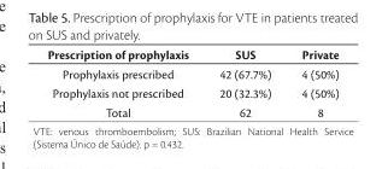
<table><thead><tr><td>Prescription of prophylaxis</td><td>SUS</td><td>Private</td></tr></thead><tbody><tr><td>Prophylaxis prescribed</td><td>42 (67.7%)</td><td>4 (50%)</td></tr><tr><td>Prophylaxis not prescribed</td><td>20 (32.3%)</td><td>4 (50%)</td></tr><tr><td>Total</td><td>62</td><td>8</td></tr></tbody></table>